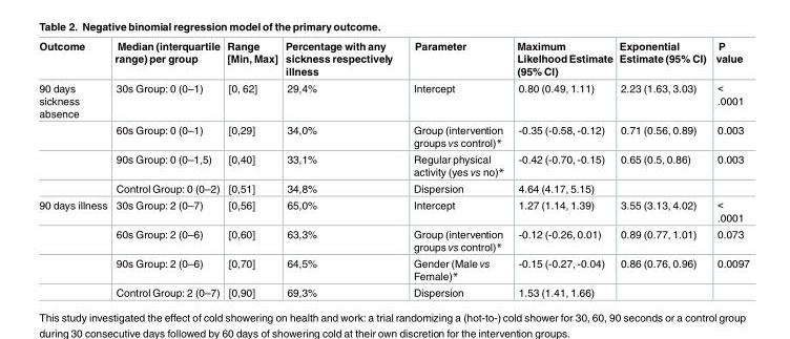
<table><thead><tr><td>Outcome</td><td>Median (interquartile range) per group</td><td>Range [Min, Max]</td><td>Percentage with any sickness respectively illness</td><td>Parameter</td><td>Maximum Likelhood Estimate (95% CI)</td><td>Exponential Estimate (95% CI)</td><td>P value</td></tr></thead><tbody><tr><td rowspan="4">90 days sickness absence</td><td>30s Group: 0 (0–1)</td><td>[0, 62]</td><td>29,4%</td><td>Intercept</td><td>0.80 (0.49, 1.11)</td><td>2.23 (1.63, 3.03)</td><td>&lt; .0001</td></tr><tr><td>60s Group: 0 (0–1)</td><td>[0,29]</td><td>34,0%</td><td>Group (intervention groups vs control)*</td><td>-0.35 (-0.58, -0.12)</td><td>0.71 (0.56, 0.89)</td><td>0.003</td></tr><tr><td>90s Group: 0 (0–1,5)</td><td>[0,40]</td><td>33,1%</td><td>Regular physical activity (yes vs no)*</td><td>-0.42 (-0.70, -0.15)</td><td>0.65 (0.5, 0.86)</td><td>0.003</td></tr><tr><td>Control Group: 0 (0–2)</td><td>[0,51]</td><td>34,8%</td><td>Dispersion</td><td>4.64 (4.17, 5.15)</td><td></td><td></td></tr><tr><td rowspan="4">90 days illness</td><td>30s Group: 2 (0–7)</td><td>[0,56]</td><td>65,0%</td><td>Intercept</td><td>1.27 (1.14, 1.39)</td><td>3.55 (3.13, 4.02)</td><td>&lt; .0001</td></tr><tr><td>60s Group: 2 (0–6)</td><td>[0,60]</td><td>63,3%</td><td>Group (intervention groups vs control)*</td><td>-0.12 (-0.26, 0.01)</td><td>0.89 (0.77, 1.01)</td><td>0.073</td></tr><tr><td>90s Group: 2 (0–6)</td><td>[0,70]</td><td>64,5%</td><td>Gender (Male vs Female)*</td><td>-0.15 (-0.27, -0.04)</td><td>0.86 (0.76, 0.96)</td><td>0.0097</td></tr><tr><td>Control Group: 2 (0–7)</td><td>[0,90]</td><td>69,3%</td><td>Dispersion</td><td>1.53 (1.41, 1.66)</td><td></td><td></td></tr></tbody></table>